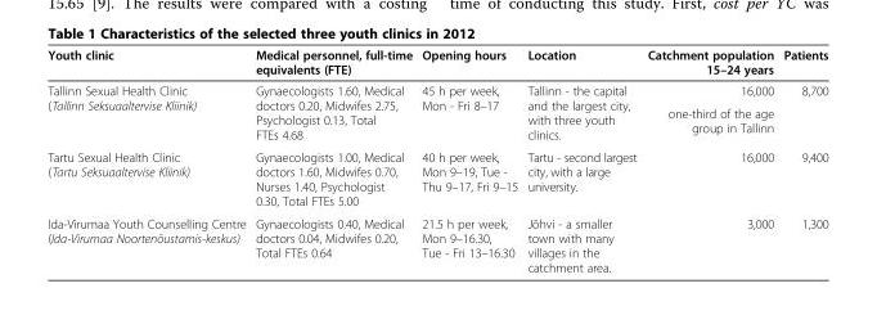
<table><thead><tr><td>Youth clinic</td><td>Medical personnel, full-time equivalents (FTE)</td><td>Opening hours</td><td>Location</td><td>Catchment population 15–24 years</td><td>Patients</td></tr></thead><tbody><tr><td rowspan="2">Tallinn Sexual Health Clinic (Tallinn Seksuaaltervise Kliinik)</td><td rowspan="2">Gynaecologists 1.60, Medical doctors 0.20, Midwifes 2.75, Psychologist 0.13, Total FTEs 4.68</td><td rowspan="2">45 h per week, Mon - Fri 8–17</td><td rowspan="2">Tallinn - the capital and the largest city, with three youth clinics.</td><td>16,000</td><td rowspan="2">8,700</td></tr><tr><td>one-third of the age group in Tallinn</td></tr><tr><td>Tartu Sexual Health Clinic (Tartu Seksuaaltervise Kliinik)</td><td>Gynaecologists 1.00, Medical doctors 1.60, Midwifes 0.70, Nurses 1.40, Psychologist 0.30, Total FTEs 5.00</td><td>40 h per week, Mon 9–19, Tue - Thu 9–17, Fri 9–15</td><td>Tartu - second largest city, with a large university.</td><td>16,000</td><td>9,400</td></tr><tr><td>Ida-Virumaa Youth Counselling Centre (Ida-Virumaa Noortenõustamis-keskus)</td><td>Gynaecologists 0.40, Medical doctors 0.04, Midwifes 0.20, Total FTEs 0.64</td><td>21.5 h per week, Mon 9–16.30, Tue - Fri 13–16.30</td><td>Jõhvi - a smaller town with many villages in the catchment area.</td><td>3,000</td><td>1,300</td></tr></tbody></table>